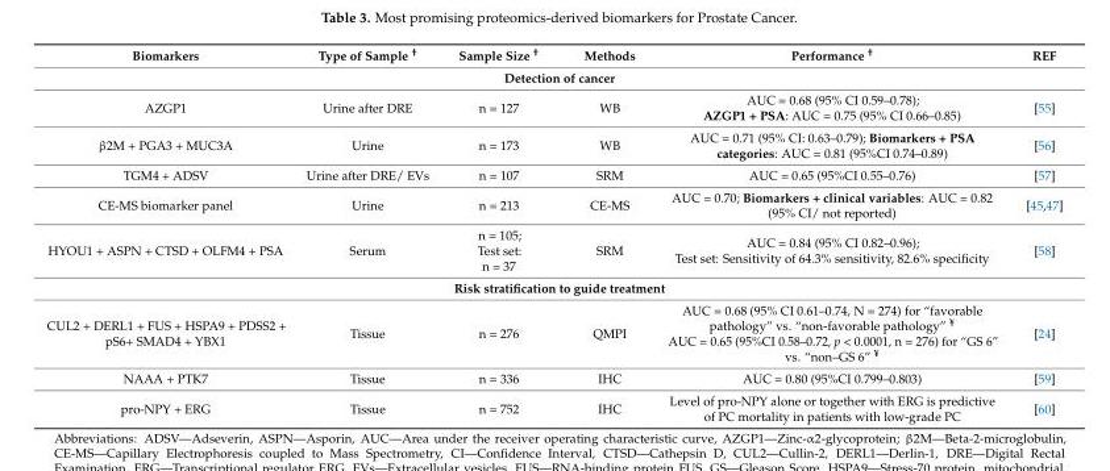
<table><thead><tr><td>Biomarkers</td><td>Type of Sample <sup>†</sup></td><td>Sample Size <sup>†</sup></td><td>Methods</td><td>Performance <sup>†</sup></td><td>REF</td></tr></thead><tbody><tr><td colspan="6">Detection of cancer</td></tr><tr><td>AZGP1</td><td>Urine after DRE</td><td>n = 127</td><td>WB</td><td>AUC = 0.68 (95% CI 0.59–0.78); AZGP1 + PSA: AUC = 0.75 (95% CI 0.66–0.85)</td><td>[55]</td></tr><tr><td>β2M + PGA3 + MUC3A</td><td>Urine</td><td>n = 173</td><td>WB</td><td>AUC = 0.71 (95% CI: 0.63–0.79); Biomarkers + PSA categories: AUC = 0.81 (95%CI 0.74–0.89)</td><td>[56]</td></tr><tr><td>TGM4 + ADSV</td><td>Urine after DRE/ EVs</td><td>n = 107</td><td>SRM</td><td>AUC = 0.65 (95%CI 0.55–0.76)</td><td>[57]</td></tr><tr><td>CE-MS biomarker panel</td><td>Urine</td><td>n = 213</td><td>CE-MS</td><td>AUC = 0.70; Biomarkers + clinical variables: AUC = 0.82 (95% CI/ not reported)</td><td>[45,47]</td></tr><tr><td>HYOU1 + ASPN + CTSD + OLFM4 + PSA</td><td>Serum</td><td>n = 105; Test set: n = 37</td><td>SRM</td><td>AUC = 0.84 (95% CI 0.82–0.96); Test set: Sensitivity of 64.3% sensitivity, 82.6% specificity</td><td>[58]</td></tr><tr><td colspan="6">Risk stratification to guide treatment</td></tr><tr><td>CUL2 + DERL1 + FUS + HSPA9 + PDSS2 + pS6+ SMAD4 + YBX1</td><td>Tissue</td><td>n = 276</td><td>QMPI</td><td>AUC = 0.68 (95% CI 0.61–0.74, N = 274) for “favorable pathology” vs. “non-favorable pathology” <sup>¥</sup> AUC = 0.65 (95%CI 0.58–0.72, p &lt; 0.0001, n = 276) for “GS 6” vs. “non–GS 6” <sup>¥</sup></td><td>[24]</td></tr><tr><td>NAAA + PTK7</td><td>Tissue</td><td>n = 336</td><td>IHC</td><td>AUC = 0.80 (95%CI 0.799–0.803)</td><td>[59]</td></tr><tr><td>pro-NPY + ERG</td><td>Tissue</td><td>n = 752</td><td>IHC</td><td>Level of pro-NPY alone or together with ERG is predictive of PC mortality in patients with low-grade PC</td><td>[60]</td></tr></tbody></table>